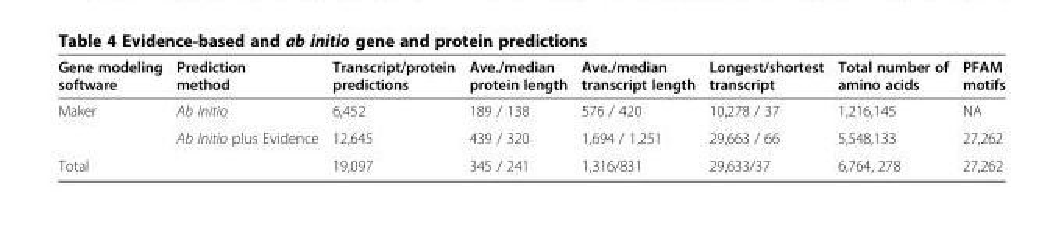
<table><thead><tr><td>Gene modeling software</td><td>Prediction method</td><td>Transcript/protein predictions</td><td>Ave./median protein length</td><td>Ave./median transcript length</td><td>Longest/shortest transcript</td><td>Total number of amino acids</td><td>PFAM motifs</td></tr></thead><tbody><tr><td rowspan="2">Maker</td><td>Ab Initio</td><td>6,452</td><td>189 / 138</td><td>576 / 420</td><td>10,278 / 37</td><td>1,216,145</td><td>NA</td></tr><tr><td>Ab Initio plus Evidence</td><td>12,645</td><td>439 / 320</td><td>1,694 / 1,251</td><td>29,663 / 66</td><td>5,548,133</td><td>27,262</td></tr><tr><td>Total</td><td></td><td>19,097</td><td>345 / 241</td><td>1,316/831</td><td>29,633/37</td><td>6,764, 278</td><td>27,262</td></tr></tbody></table>